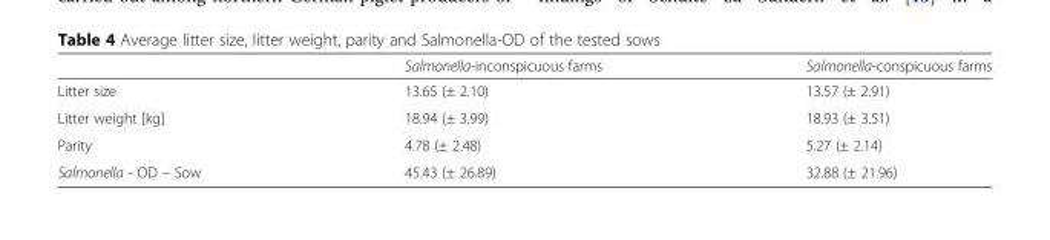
<table><thead><tr><td></td><td>Salmonella-inconspicuous farms</td><td>Salmonella-conspicuous farms</td></tr></thead><tbody><tr><td>Litter size</td><td>13.65 (± 2.10)</td><td>13.57 (± 2.91)</td></tr><tr><td>Litter weight [kg]</td><td>18.94 (± 3.99)</td><td>18.93 (± 3.51)</td></tr><tr><td>Parity</td><td>4.78 (± 2.48)</td><td>5.27 (± 2.14)</td></tr><tr><td>Salmonella - OD – Sow</td><td>45.43 (± 26.89)</td><td>32.88 (± 21.96)</td></tr></tbody></table>